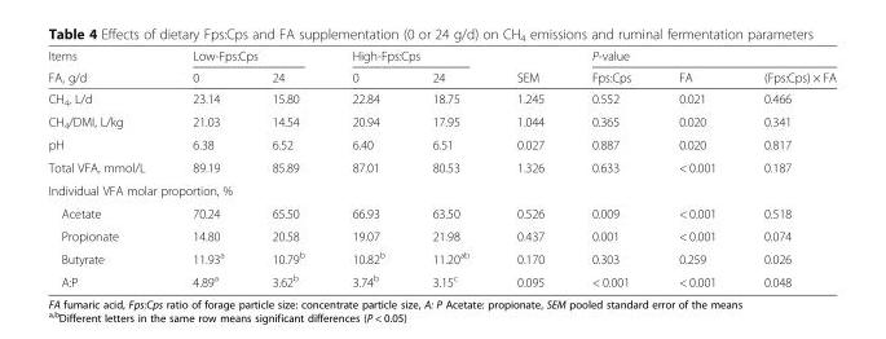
<table><thead><tr><td rowspan="2">Items FA, g/d</td><td colspan="2">Low-Fps:Cps</td><td colspan="2">High-Fps:Cps</td><td rowspan="2">SEM</td><td colspan="3">P-value</td></tr><tr><td>0</td><td>24</td><td>0</td><td>24</td><td>Fps:Cps</td><td>FA</td><td>(Fps:Cps) × FA</td></tr></thead><tbody><tr><td>CH<sub>4</sub>, L/d</td><td>23.14</td><td>15.80</td><td>22.84</td><td>18.75</td><td>1.245</td><td>0.552</td><td>0.021</td><td>0.466</td></tr><tr><td>CH<sub>4</sub>/DMI, L/kg</td><td>21.03</td><td>14.54</td><td>20.94</td><td>17.95</td><td>1.044</td><td>0.365</td><td>0.020</td><td>0.341</td></tr><tr><td>pH</td><td>6.38</td><td>6.52</td><td>6.40</td><td>6.51</td><td>0.027</td><td>0.887</td><td>0.020</td><td>0.817</td></tr><tr><td>Total VFA, mmol/L</td><td>89.19</td><td>85.89</td><td>87.01</td><td>80.53</td><td>1.326</td><td>0.633</td><td>&lt; 0.001</td><td>0.187</td></tr><tr><td colspan="9">Individual VFA molar proportion, %</td></tr><tr><td>Acetate</td><td>70.24</td><td>65.50</td><td>66.93</td><td>63.50</td><td>0.526</td><td>0.009</td><td>&lt; 0.001</td><td>0.518</td></tr><tr><td>Propionate</td><td>14.80</td><td>20.58</td><td>19.07</td><td>21.98</td><td>0.437</td><td>0.001</td><td>&lt; 0.001</td><td>0.074</td></tr><tr><td>Butyrate</td><td>11.93<sup>a</sup></td><td>10.79<sup>b</sup></td><td>10.82<sup>b</sup></td><td>11.20<sup>ab</sup></td><td>0.170</td><td>0.303</td><td>0.259</td><td>0.026</td></tr><tr><td>A:P</td><td>4.89<sup>a</sup></td><td>3.62<sup>b</sup></td><td>3.74<sup>b</sup></td><td>3.15<sup>c</sup></td><td>0.095</td><td>&lt; 0.001</td><td>&lt; 0.001</td><td>0.048</td></tr></tbody></table>